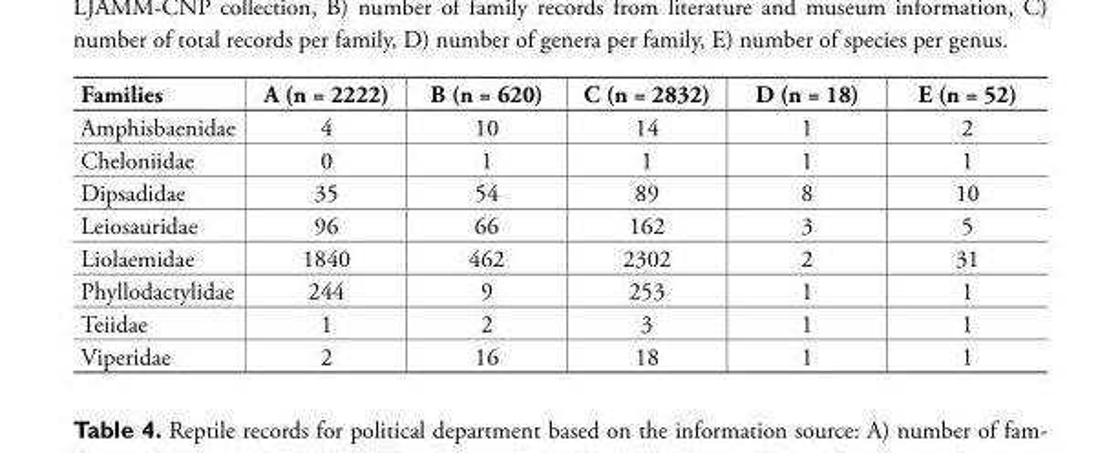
<table><thead><tr><td>Families</td><td>A (n = 2222)</td><td>B (n = 620)</td><td>C (n = 2832)</td><td>D (n = 18)</td><td>E (n = 52)</td></tr></thead><tbody><tr><td>Amphisbaenidae</td><td>4</td><td>10</td><td>14</td><td>1</td><td>2</td></tr><tr><td>Cheloniidae</td><td>0</td><td>1</td><td>1</td><td>1</td><td>1</td></tr><tr><td>Dipsadidae</td><td>35</td><td>54</td><td>89</td><td>8</td><td>10</td></tr><tr><td>Leiosauridae</td><td>96</td><td>66</td><td>162</td><td>3</td><td>5</td></tr><tr><td>Liolaemidae</td><td>1840</td><td>462</td><td>2302</td><td>2</td><td>31</td></tr><tr><td>Phyllodactylidae</td><td>244</td><td>9</td><td>253</td><td>1</td><td>1</td></tr><tr><td>Teiidae</td><td>1</td><td>2</td><td>3</td><td>1</td><td>1</td></tr><tr><td>Viperidae</td><td>2</td><td>16</td><td>18</td><td>1</td><td>1</td></tr></tbody></table>